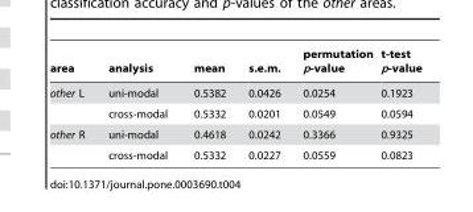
<table><thead><tr><td>area</td><td>analysis</td><td>mean</td><td>s.e.m.</td><td>permutation p-value</td><td>t-test p-value</td></tr></thead><tbody><tr><td rowspan="2">other L</td><td>uni-modal</td><td>0.5382</td><td>0.0426</td><td>0.0254</td><td>0.1923</td></tr><tr><td>cross-modal</td><td>0.5332</td><td>0.0201</td><td>0.0549</td><td>0.0594</td></tr><tr><td rowspan="2">other R</td><td>uni-modal</td><td>0.4618</td><td>0.0242</td><td>0.3366</td><td>0.9325</td></tr><tr><td>cross-modal</td><td>0.5332</td><td>0.0227</td><td>0.0559</td><td>0.0823</td></tr></tbody></table>